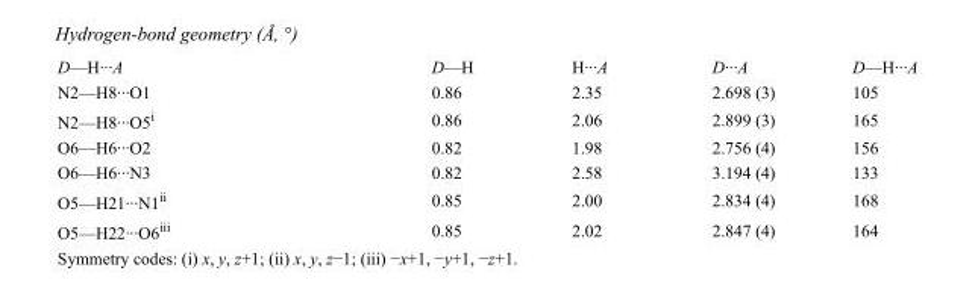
<table><tbody><tr><td>D—H···A</td><td>D—H</td><td>H···A</td><td>D···A</td><td>D—H···A</td></tr><tr><td>N2—H8···O1</td><td>0.86</td><td>2.35</td><td>2.698 (3)</td><td>105</td></tr><tr><td>N2—H8···O5<sup>i</sup></td><td>0.86</td><td>2.06</td><td>2.899 (3)</td><td>165</td></tr><tr><td>O6—H6···O2</td><td>0.82</td><td>1.98</td><td>2.756 (4)</td><td>156</td></tr><tr><td>O6—H6···N3</td><td>0.82</td><td>2.58</td><td>3.194 (4)</td><td>133</td></tr><tr><td>O5—H21···N1<sup>ii</sup></td><td>0.85</td><td>2.00</td><td>2.834 (4)</td><td>168</td></tr><tr><td>O5—H22···O6<sup>iii</sup></td><td>0.85</td><td>2.02</td><td>2.847 (4)</td><td>164</td></tr></tbody></table>